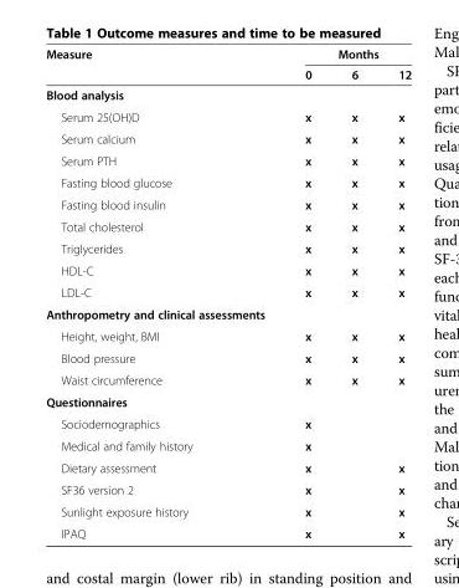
<table><thead><tr><td rowspan="2">Measure</td><td colspan="3">Months</td></tr><tr><td>0</td><td>6</td><td>12</td></tr></thead><tbody><tr><td colspan="4">Blood analysis</td></tr><tr><td>Serum 25(OH)D</td><td>x</td><td>x</td><td>x</td></tr><tr><td>Serum calcium</td><td>x</td><td>x</td><td>x</td></tr><tr><td>Serum PTH</td><td>x</td><td>x</td><td>x</td></tr><tr><td>Fasting blood glucose</td><td>x</td><td>x</td><td>x</td></tr><tr><td>Fasting blood insulin</td><td>x</td><td>x</td><td>x</td></tr><tr><td>Total cholesterol</td><td>x</td><td>x</td><td>x</td></tr><tr><td>Triglycerides</td><td>x</td><td>x</td><td>x</td></tr><tr><td>HDL-C</td><td>x</td><td>x</td><td>x</td></tr><tr><td>LDL-C</td><td>x</td><td>x</td><td>x</td></tr><tr><td colspan="4">Anthropometry and clinical assessments</td></tr><tr><td>Height, weight, BMI</td><td>x</td><td>x</td><td>x</td></tr><tr><td>Blood pressure</td><td>x</td><td>x</td><td>x</td></tr><tr><td>Waist circumference</td><td>x</td><td>x</td><td>x</td></tr><tr><td colspan="4">Questionnaires</td></tr><tr><td>Sociodemographics</td><td>x</td><td></td><td></td></tr><tr><td>Medical and family history</td><td>x</td><td></td><td></td></tr><tr><td>Dietary assessment</td><td>x</td><td></td><td>x</td></tr><tr><td>SF36 version 2</td><td>x</td><td></td><td>x</td></tr><tr><td>Sunlight exposure history</td><td>x</td><td></td><td>x</td></tr><tr><td>IPAQ</td><td>x</td><td></td><td>x</td></tr></tbody></table>